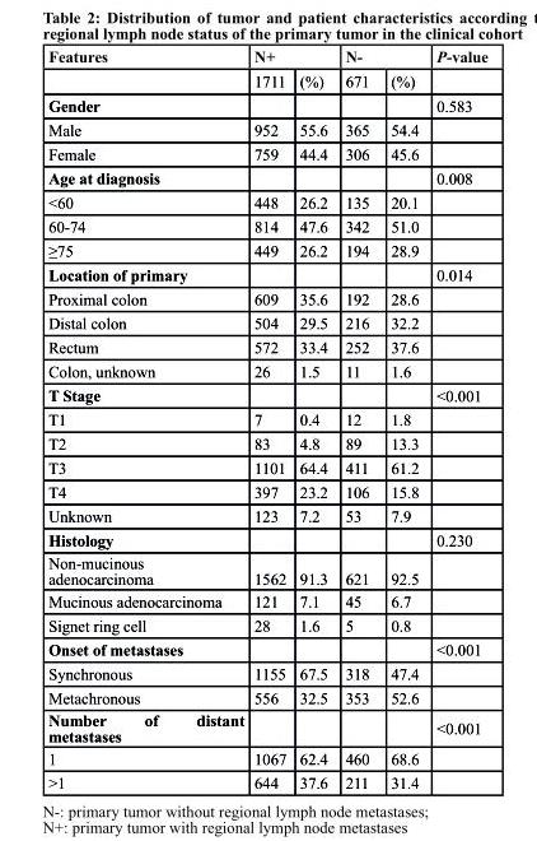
<table><thead><tr><td rowspan="2">Features</td><td colspan="2">n+</td><td colspan="2">n-</td><td rowspan="2">P-value</td></tr><tr><td>1711</td><td>(%)</td><td>671</td><td>(%)</td></tr></thead><tbody><tr><td>Gender</td><td></td><td></td><td></td><td></td><td>0.583</td></tr><tr><td>Male</td><td>952</td><td>55.6</td><td>365</td><td>54.4</td><td></td></tr><tr><td>Female</td><td>759</td><td>44.4</td><td>306</td><td>45.6</td><td></td></tr><tr><td>Age at diagnosis</td><td></td><td></td><td></td><td></td><td>0.008</td></tr><tr><td>&lt;60</td><td>448</td><td>26.2</td><td>135</td><td>20.1</td><td></td></tr><tr><td>60-74</td><td>814</td><td>47.6</td><td>342</td><td>51.0</td><td></td></tr><tr><td>≥75</td><td>449</td><td>26.2</td><td>194</td><td>28.9</td><td></td></tr><tr><td>location of primary</td><td></td><td></td><td></td><td></td><td>0.014</td></tr><tr><td>Proximal colon</td><td>609</td><td>35.6</td><td>192</td><td>28.6</td><td></td></tr><tr><td>Distal colon</td><td>504</td><td>29.5</td><td>216</td><td>32.2</td><td></td></tr><tr><td>Rectum</td><td>572</td><td>33.4</td><td>252</td><td>37.6</td><td></td></tr><tr><td>Colon, unknown</td><td>26</td><td>1.5</td><td>11</td><td>1.6</td><td></td></tr><tr><td>t stage</td><td></td><td></td><td></td><td></td><td>&lt;0.001</td></tr><tr><td>T1</td><td>7</td><td>0.4</td><td>12</td><td>1.8</td><td></td></tr><tr><td>T2</td><td>83</td><td>4.8</td><td>89</td><td>13.3</td><td></td></tr><tr><td>T3</td><td>1101</td><td>64.4</td><td>411</td><td>61.2</td><td></td></tr><tr><td>T4</td><td>397</td><td>23.2</td><td>106</td><td>15.8</td><td></td></tr><tr><td>Unknown</td><td>123</td><td>7.2</td><td>53</td><td>7.9</td><td></td></tr><tr><td>Histology</td><td></td><td></td><td></td><td></td><td>0.230</td></tr><tr><td>Non-mucinous adenocarcinoma</td><td>1562</td><td>91.3</td><td>621</td><td>92.5</td><td></td></tr><tr><td>Mucinous adenocarcinoma</td><td>121</td><td>7.1</td><td>45</td><td>6.7</td><td></td></tr><tr><td>Signet ring cell</td><td>28</td><td>1.6</td><td>5</td><td>0.8</td><td></td></tr><tr><td>onset of metastases</td><td></td><td></td><td></td><td></td><td>&lt;0.001</td></tr><tr><td>Synchronous</td><td>1155</td><td>67.5</td><td>318</td><td>47.4</td><td></td></tr><tr><td>Metachronous</td><td>556</td><td>32.5</td><td>353</td><td>52.6</td><td></td></tr><tr><td>number of distant metastases</td><td></td><td></td><td></td><td></td><td>&lt;0.001</td></tr><tr><td>1</td><td>1067</td><td>62.4</td><td>460</td><td>68.6</td><td></td></tr><tr><td>&gt;1</td><td>644</td><td>37.6</td><td>211</td><td>31.4</td><td></td></tr></tbody></table>